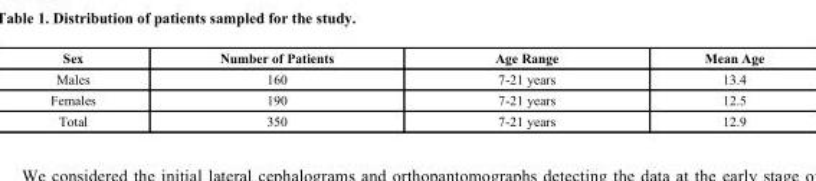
<table><thead><tr><td>Sex</td><td>Number of Patients</td><td>Age Range</td><td>Mean Age</td></tr></thead><tbody><tr><td>Males</td><td>160</td><td>7-21 years</td><td>13.4</td></tr><tr><td>Females</td><td>190</td><td>7-21 years</td><td>12.5</td></tr><tr><td>Total</td><td>350</td><td>7-21 years</td><td>12.9</td></tr></tbody></table>